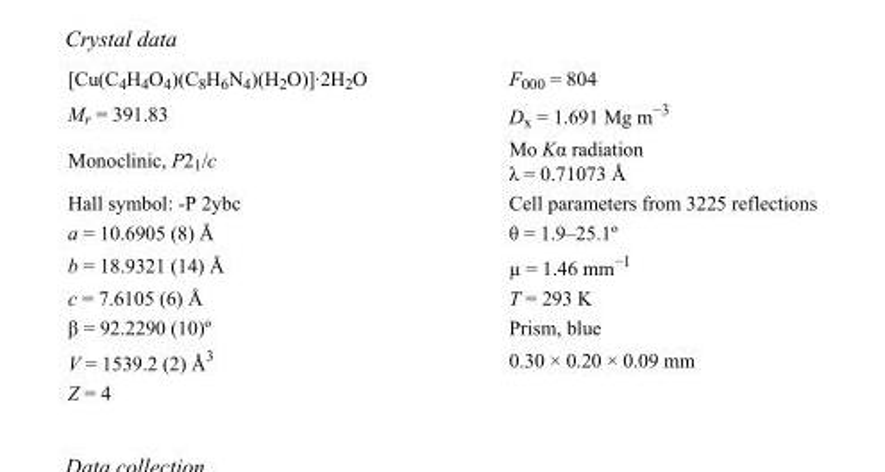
<table><tbody><tr><td>[Cu(C<sub>4</sub>H<sub>4</sub>O<sub>4</sub>)(C<sub>8</sub>H<sub>6</sub>N<sub>4</sub>)(H<sub>2</sub>O)]·2H<sub>2</sub>O</td><td>F000 = 804</td></tr><tr><td>M<sub>r</sub> = 391.83</td><td>D<sub>x</sub> = 1.691 Mg m<sup>−3</sup></td></tr><tr><td>Monoclinic, P2<sub>1</sub>/c</td><td>Mo Kα radiation λ = 0.71073 Å</td></tr><tr><td>Hall symbol: -P 2ybc</td><td>Cell parameters from 3225 reflections</td></tr><tr><td>a = 10.6905 (8) Å</td><td>θ = 1.9–25.1º</td></tr><tr><td>b = 18.9321 (14) Å</td><td>µ = 1.46 mm<sup>−1</sup></td></tr><tr><td>c = 7.6105 (6) Å</td><td>T = 293 K</td></tr><tr><td>β = 92.2290 (10)º</td><td>Prism, blue</td></tr><tr><td>V = 1539.2 (2) Å<sup>3</sup></td><td>0.30 × 0.20 × 0.09 mm</td></tr><tr><td>Z = 4</td><td></td></tr></tbody></table>